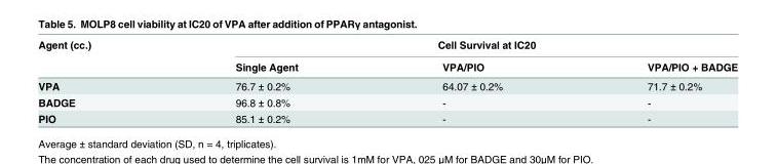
<table><thead><tr><td rowspan="2">Agent (cc.)</td><td colspan="3">Cell Survival at IC20</td></tr><tr><td>Single Agent</td><td>VPA/PIO</td><td>VPA/PIO + BADGE</td></tr></thead><tbody><tr><td>VPA</td><td>76.7 ± 0.2%</td><td>64.07 ± 0.2%</td><td>71.7 ± 0.2%</td></tr><tr><td>BADGE</td><td>96.8 ± 0.8%</td><td>-</td><td>-</td></tr><tr><td>PIO</td><td>85.1 ± 0.2%</td><td>-</td><td>-</td></tr></tbody></table>